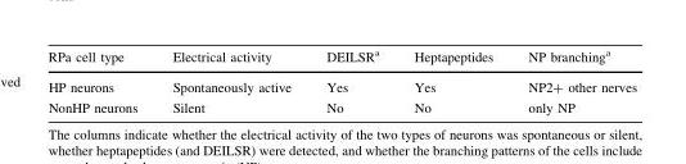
<table><thead><tr><td>RPa cell type</td><td>Electrical activity</td><td>DEILSR<sup>a</sup></td><td>Heptapeptides</td><td>NP branching<sup>a</sup></td></tr></thead><tbody><tr><td>HP neurons</td><td>Spontaneously active</td><td>Yes</td><td>Yes</td><td>NP2+ other nerves</td></tr><tr><td>NonHP neurons</td><td>Silent</td><td>No</td><td>No</td><td>only NP</td></tr></tbody></table>